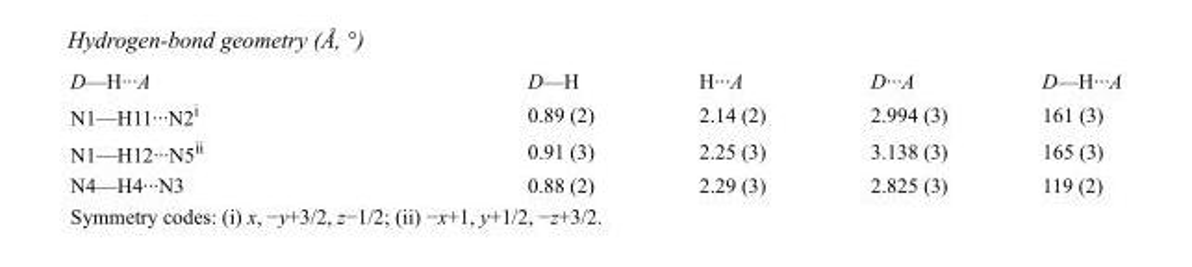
<table><tbody><tr><td>D—H···A</td><td>D—H</td><td>H···A</td><td>D···A</td><td>D—H···A</td></tr><tr><td>N1—H11···N2<sup>i</sup></td><td>0.89 (2)</td><td>2.14 (2)</td><td>2.994 (3)</td><td>161 (3)</td></tr><tr><td>N1—H12···N5<sup>ii</sup></td><td>0.91 (3)</td><td>2.25 (3)</td><td>3.138 (3)</td><td>165 (3)</td></tr><tr><td>N4—H4···N3</td><td>0.88 (2)</td><td>2.29 (3)</td><td>2.825 (3)</td><td>119 (2)</td></tr></tbody></table>